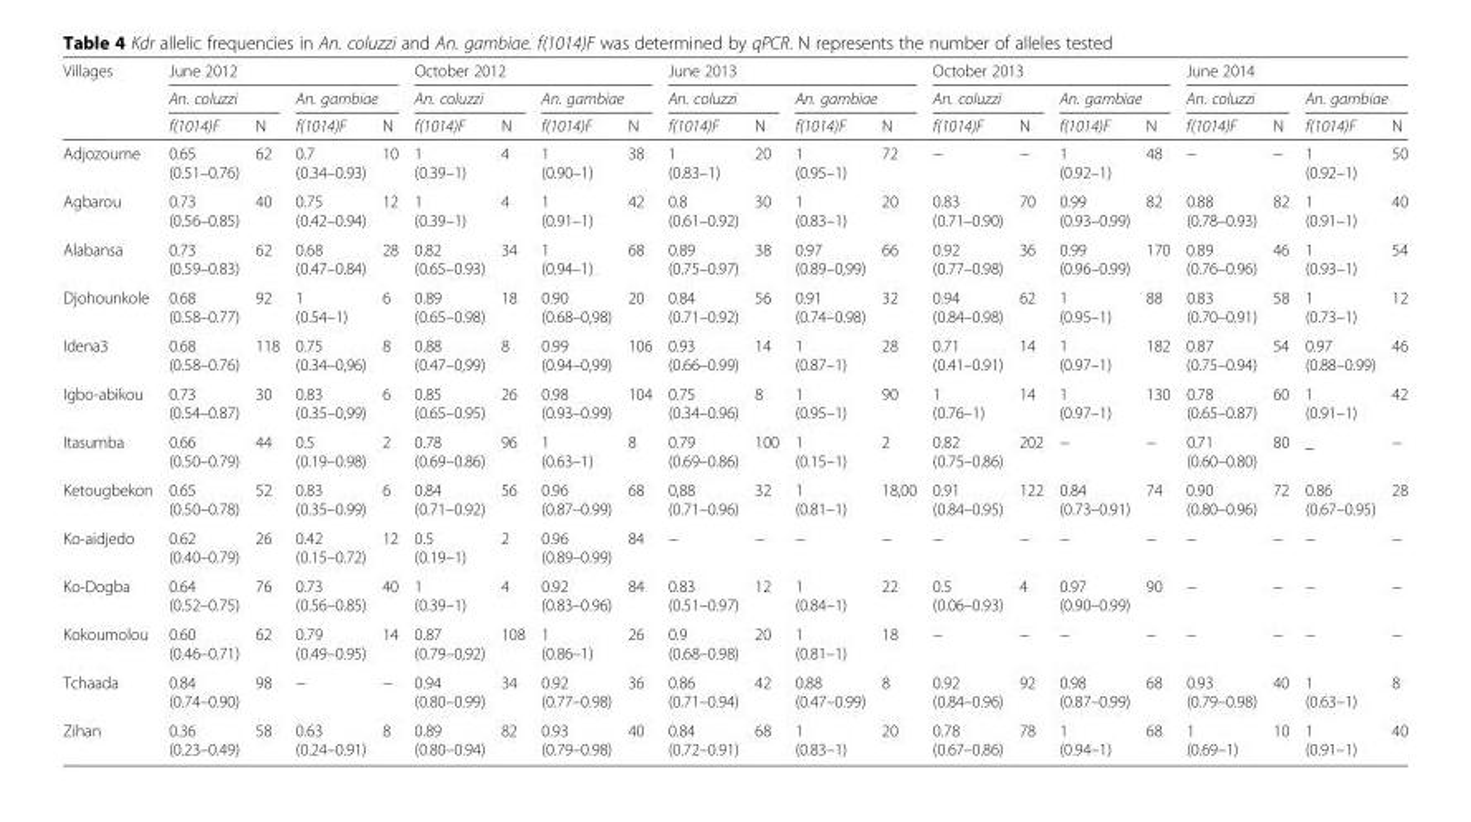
<table><thead><tr><td rowspan="3">Villages</td><td colspan="4">June 2012</td><td colspan="4">October 2012</td><td colspan="4">June 2013</td><td colspan="4">October 2013</td><td colspan="4">June 2014</td></tr><tr><td colspan="2">An. coluzzi</td><td colspan="2">An. gambiae</td><td colspan="2">An. coluzzi</td><td colspan="2">An. gambiae</td><td colspan="2">An. coluzzi</td><td colspan="2">An. gambiae</td><td colspan="2">An. coluzzi</td><td colspan="2">An. gambiae</td><td colspan="2">An. coluzzi</td><td colspan="2">An. gambiae</td></tr><tr><td>f(1014)F</td><td>N</td><td>f(1014)F</td><td>N</td><td>f(1014)F</td><td>N</td><td>f(1014)F</td><td>N</td><td>f(1014)F</td><td>N</td><td>f(1014)F</td><td>N</td><td>f(1014)F</td><td>N</td><td>f(1014)F</td><td>N</td><td>f(1014)F</td><td>N</td><td>f(1014)F</td><td>N</td></tr></thead><tbody><tr><td>Adjozoume</td><td>0.65 (0.51–0.76)</td><td>62</td><td>0.7 (0.34–0.93)</td><td>10</td><td>1 (0.39–1)</td><td>4</td><td>1 (0.90–1)</td><td>38</td><td>1 (0.83–1)</td><td>20</td><td>1 (0.95–1)</td><td>72</td><td>−</td><td>−</td><td>1 (0.92–1)</td><td>48</td><td>−</td><td>−</td><td>1 (0.92–1)</td><td>50</td></tr><tr><td>Agbarou</td><td>0.73 (0.56–0.85)</td><td>40</td><td>0.75 (0.42–0.94)</td><td>12</td><td>1 (0.39–1)</td><td>4</td><td>1 (0.91–1)</td><td>42</td><td>0.8 (0.61–0.92)</td><td>30</td><td>1 (0.83–1)</td><td>20</td><td>0.83 (0.71–0.90)</td><td>70</td><td>0.99 (0.93–0.99)</td><td>82</td><td>0.88 (0.78–0.93)</td><td>82</td><td>1 (0.91–1)</td><td>40</td></tr><tr><td>Alabansa</td><td>0.73 (0.59–0.83)</td><td>62</td><td>0.68 (0.47–0.84)</td><td>28</td><td>0.82 (0.65–0.93)</td><td>34</td><td>1 (0.94–1)</td><td>68</td><td>0.89 (0.75–0.97)</td><td>38</td><td>0.97 (0.89–0,99)</td><td>66</td><td>0.92 (0.77–0.98)</td><td>36</td><td>0.99 (0.96–0.99)</td><td>170</td><td>0.89 (0.76–0.96)</td><td>46</td><td>1 (0.93–1)</td><td>54</td></tr><tr><td>Djohounkole</td><td>0.68 (0.58–0.77)</td><td>92</td><td>1 (0.54–1)</td><td>6</td><td>0.89 (0.65–0.98)</td><td>18</td><td>0.90 (0.68–0,98)</td><td>20</td><td>0.84 (0.71–0.92)</td><td>56</td><td>0.91 (0.74–0.98)</td><td>32</td><td>0.94 (0.84–0.98)</td><td>62</td><td>1 (0.95–1)</td><td>88</td><td>0.83 (0.70–0.91)</td><td>58</td><td>1 (0.73–1)</td><td>12</td></tr><tr><td>Idena3</td><td>0.68 (0.58–0.76)</td><td>118</td><td>0.75 (0.34–0,96)</td><td>8</td><td>0.88 (0.47–0,99)</td><td>8</td><td>0.99 (0.94–0,99)</td><td>106</td><td>0.93 (0.66–0.99)</td><td>14</td><td>1 (0.87–1)</td><td>28</td><td>0.71 (0.41–0.91)</td><td>14</td><td>1 (0.97–1)</td><td>182</td><td>0.87 (0.75–0.94)</td><td>54</td><td>0.97 (0.88–0.99)</td><td>46</td></tr><tr><td>Igbo-abikou</td><td>0.73 (0.54–0.87)</td><td>30</td><td>0.83 (0.35–0,99)</td><td>6</td><td>0.85 (0.65–0.95)</td><td>26</td><td>0.98 (0.93–0.99)</td><td>104</td><td>0.75 (0.34–0.96)</td><td>8</td><td>1 (0.95–1)</td><td>90</td><td>1 (0.76–1)</td><td>14</td><td>1 (0.97–1)</td><td>130</td><td>0.78 (0.65–0.87)</td><td>60</td><td>1 (0.91–1)</td><td>42</td></tr><tr><td>Itasumba</td><td>0.66 (0.50–0.79)</td><td>44</td><td>0.5 (0.19–0.98)</td><td>2</td><td>0.78 (0.69–0.86)</td><td>96</td><td>1 (0.63–1)</td><td>8</td><td>0.79 (0.69–0.86)</td><td>100</td><td>1 (0.15–1)</td><td>2</td><td>0.82 (0.75–0.86)</td><td>202</td><td>−</td><td>−</td><td>0.71 (0.60–0.80)</td><td>80</td><td>_</td><td>−</td></tr><tr><td>Ketougbekon</td><td>0.65 (0.50–0.78)</td><td>52</td><td>0.83 (0.35–0.99)</td><td>6</td><td>0.84 (0.71–0.92)</td><td>56</td><td>0.96 (0.87–0.99)</td><td>68</td><td>0,88 (0.71–0.96)</td><td>32</td><td>1 (0.81–1)</td><td>18,00</td><td>0.91 (0.84–0.95)</td><td>122</td><td>0.84 (0.73–0.91)</td><td>74</td><td>0.90 (0.80–0.96)</td><td>72</td><td>0.86 (0.67–0.95)</td><td>28</td></tr><tr><td>Ko-aidjedo</td><td>0.62 (0.40–0.79)</td><td>26</td><td>0.42 (0.15–0.72)</td><td>12</td><td>0.5 (0.19–1)</td><td>2</td><td>0.96 (0.89–0.99)</td><td>84</td><td>−</td><td>−</td><td>−</td><td>−</td><td>−</td><td>−</td><td>−</td><td>−</td><td>−</td><td>−</td><td>−</td><td>−</td></tr><tr><td>Ko-Dogba</td><td>0.64 (0.52–0.75)</td><td>76</td><td>0.73 (0.56–0.85)</td><td>40</td><td>1 (0.39–1)</td><td>4</td><td>0.92 (0.83–0.96)</td><td>84</td><td>0.83 (0.51–0.97)</td><td>12</td><td>1 (0.84–1)</td><td>22</td><td>0.5 (0.06–0.93)</td><td>4</td><td>0.97 (0.90–0.99)</td><td>90</td><td>−</td><td>−</td><td>−</td><td>−</td></tr><tr><td>Kokoumolou</td><td>0.60 (0.46–0.71)</td><td>62</td><td>0.79 (0.49–0.95)</td><td>14</td><td>0.87 (0.79–0,92)</td><td>108</td><td>1 (0.86–1)</td><td>26</td><td>0.9 (0.68–0.98)</td><td>20</td><td>1 (0.81–1)</td><td>18</td><td>−</td><td>−</td><td>−</td><td>−</td><td>−</td><td>−</td><td>−</td><td>−</td></tr><tr><td>Tchaada</td><td>0.84 (0.74–0.90)</td><td>98</td><td>−</td><td>−</td><td>0.94 (0.80–0.99)</td><td>34</td><td>0.92 (0.77–0.98)</td><td>36</td><td>0.86 (0.71–0.94)</td><td>42</td><td>0.88 (0.47–0.99)</td><td>8</td><td>0.92 (0.84–0.96)</td><td>92</td><td>0.98 (0.87–0.99)</td><td>68</td><td>0.93 (0.79–0.98)</td><td>40</td><td>1 (0.63–1)</td><td>8</td></tr><tr><td>Zihan</td><td>0.36 (0.23–0.49)</td><td>58</td><td>0.63 (0.24–0.91)</td><td>8</td><td>0.89 (0.80–0.94)</td><td>82</td><td>0.93 (0.79–0.98)</td><td>40</td><td>0.84 (0.72–0.91)</td><td>68</td><td>1 (0.83–1)</td><td>20</td><td>0.78 (0.67–0.86)</td><td>78</td><td>1 (0.94–1)</td><td>68</td><td>1 (0.69–1)</td><td>10</td><td>1 (0.91–1)</td><td>40</td></tr></tbody></table>